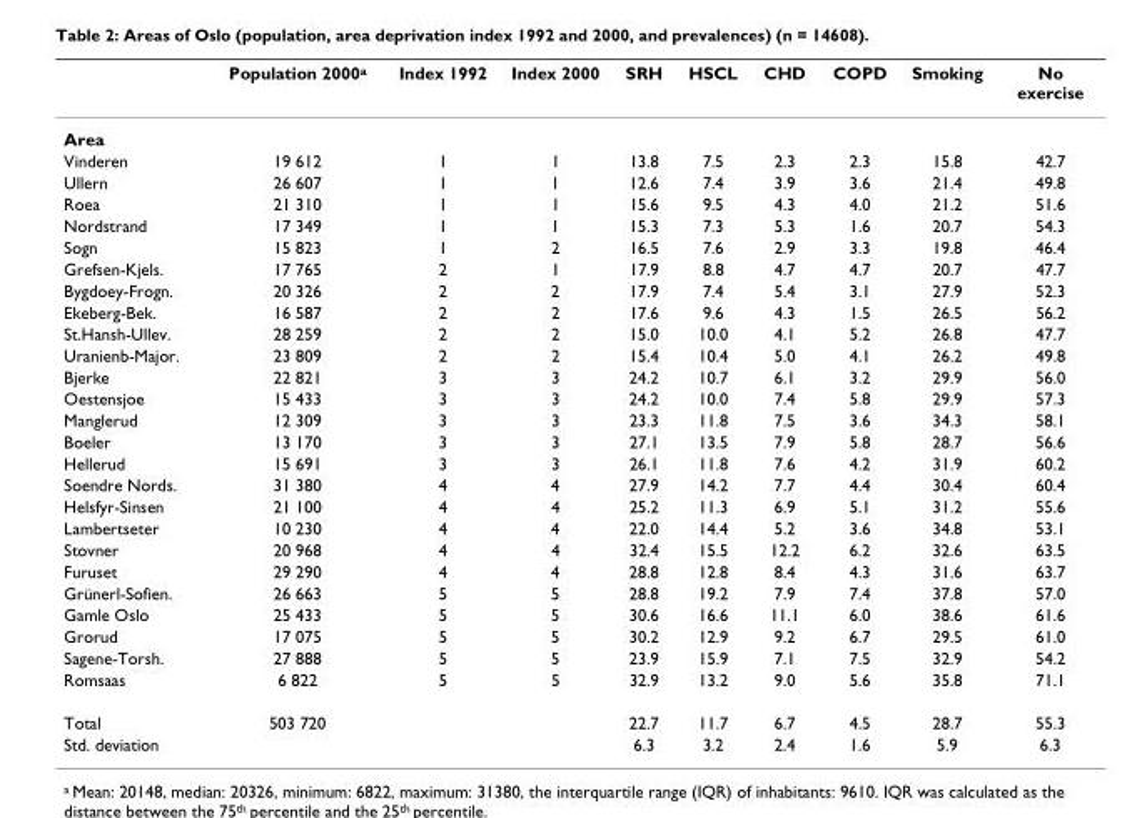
<table><thead><tr><td></td><td>Population 2000<sup>a</sup></td><td>Index 1992</td><td>Index 2000</td><td>SRH</td><td>HSCL</td><td>CHD</td><td>COPD</td><td>Smoking</td><td>No exercise</td></tr></thead><tbody><tr><td colspan="10">Area</td></tr><tr><td>Vinderen</td><td>19 612</td><td>1</td><td>1</td><td>13.8</td><td>7.5</td><td>2.3</td><td>2.3</td><td>15.8</td><td>42.7</td></tr><tr><td>Ullern</td><td>26 607</td><td>1</td><td>1</td><td>12.6</td><td>7.4</td><td>3.9</td><td>3.6</td><td>21.4</td><td>49.8</td></tr><tr><td>Roea</td><td>21 310</td><td>1</td><td>1</td><td>15.6</td><td>9.5</td><td>4.3</td><td>4.0</td><td>21.2</td><td>51.6</td></tr><tr><td>Nordstrand</td><td>17 349</td><td>1</td><td>1</td><td>15.3</td><td>7.3</td><td>5.3</td><td>1.6</td><td>20.7</td><td>54.3</td></tr><tr><td>Sogn</td><td>15 823</td><td>1</td><td>2</td><td>16.5</td><td>7.6</td><td>2.9</td><td>3.3</td><td>19.8</td><td>46.4</td></tr><tr><td>Grefsen-Kjels.</td><td>17 765</td><td>2</td><td>1</td><td>17.9</td><td>8.8</td><td>4.7</td><td>4.7</td><td>20.7</td><td>47.7</td></tr><tr><td>Bygdoey-Frogn.</td><td>20 326</td><td>2</td><td>2</td><td>17.9</td><td>7.4</td><td>5.4</td><td>3.1</td><td>27.9</td><td>52.3</td></tr><tr><td>Ekeberg-Bek.</td><td>16 587</td><td>2</td><td>2</td><td>17.6</td><td>9.6</td><td>4.3</td><td>1.5</td><td>26.5</td><td>56.2</td></tr><tr><td>St.Hansh-Ullev.</td><td>28 259</td><td>2</td><td>2</td><td>15.0</td><td>10.0</td><td>4.1</td><td>5.2</td><td>26.8</td><td>47.7</td></tr><tr><td>Uranienb-Major.</td><td>23 809</td><td>2</td><td>2</td><td>15.4</td><td>10.4</td><td>5.0</td><td>4.1</td><td>26.2</td><td>49.8</td></tr><tr><td>Bjerke</td><td>22 821</td><td>3</td><td>3</td><td>24.2</td><td>10.7</td><td>6.1</td><td>3.2</td><td>29.9</td><td>56.0</td></tr><tr><td>Oestensjoe</td><td>15 433</td><td>3</td><td>3</td><td>24.2</td><td>10.0</td><td>7.4</td><td>5.8</td><td>29.9</td><td>57.3</td></tr><tr><td>Manglerud</td><td>12 309</td><td>3</td><td>3</td><td>23.3</td><td>11.8</td><td>7.5</td><td>3.6</td><td>34.3</td><td>58.1</td></tr><tr><td>Boeler</td><td>13 170</td><td>3</td><td>3</td><td>27.1</td><td>13.5</td><td>7.9</td><td>5.8</td><td>28.7</td><td>56.6</td></tr><tr><td>Hellerud</td><td>15 691</td><td>3</td><td>3</td><td>26.1</td><td>11.8</td><td>7.6</td><td>4.2</td><td>31.9</td><td>60.2</td></tr><tr><td>Soendre Nords.</td><td>31 380</td><td>4</td><td>4</td><td>27.9</td><td>14.2</td><td>7.7</td><td>4.4</td><td>30.4</td><td>60.4</td></tr><tr><td>Helsfyr-Sinsen</td><td>21 100</td><td>4</td><td>4</td><td>25.2</td><td>11.3</td><td>6.9</td><td>5.1</td><td>31.2</td><td>55.6</td></tr><tr><td>Lambertseter</td><td>10 230</td><td>4</td><td>4</td><td>22.0</td><td>14.4</td><td>5.2</td><td>3.6</td><td>34.8</td><td>53.1</td></tr><tr><td>Stovner</td><td>20 968</td><td>4</td><td>4</td><td>32.4</td><td>15.5</td><td>12.2</td><td>6.2</td><td>32.6</td><td>63.5</td></tr><tr><td>Furuset</td><td>29 290</td><td>4</td><td>4</td><td>28.8</td><td>12.8</td><td>8.4</td><td>4.3</td><td>31.6</td><td>63.7</td></tr><tr><td>Grünerl-Sofien.</td><td>26 663</td><td>5</td><td>5</td><td>28.8</td><td>19.2</td><td>7.9</td><td>7.4</td><td>37.8</td><td>57.0</td></tr><tr><td>Gamle Oslo</td><td>25 433</td><td>5</td><td>5</td><td>30.6</td><td>16.6</td><td>11.1</td><td>6.0</td><td>38.6</td><td>61.6</td></tr><tr><td>Grorud</td><td>17 075</td><td>5</td><td>5</td><td>30.2</td><td>12.9</td><td>9.2</td><td>6.7</td><td>29.5</td><td>61.0</td></tr><tr><td>Sagene-Torsh.</td><td>27 888</td><td>5</td><td>5</td><td>23.9</td><td>15.9</td><td>7.1</td><td>7.5</td><td>32.9</td><td>54.2</td></tr><tr><td>Romsaas</td><td>6 822</td><td>5</td><td>5</td><td>32.9</td><td>13.2</td><td>9.0</td><td>5.6</td><td>35.8</td><td>71.1</td></tr><tr><td>Total</td><td>503 720</td><td></td><td></td><td>22.7</td><td>11.7</td><td>6.7</td><td>4.5</td><td>28.7</td><td>55.3</td></tr><tr><td>Std. deviation</td><td></td><td></td><td></td><td>6.3</td><td>3.2</td><td>2.4</td><td>1.6</td><td>5.9</td><td>6.3</td></tr></tbody></table>